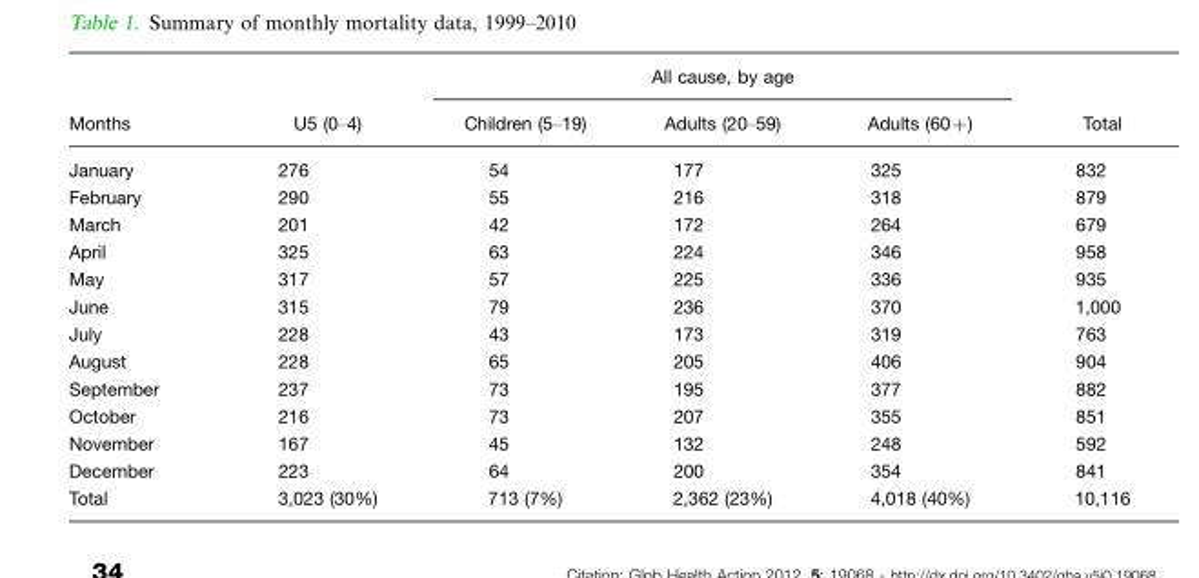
<table><thead><tr><td rowspan="2">Months</td><td rowspan="2">U5 (0–4)</td><td colspan="3">All cause, by age</td><td rowspan="2">Total</td></tr><tr><td>Children (5–19)</td><td>Adults (20–59)</td><td>Adults (60+)</td></tr></thead><tbody><tr><td>January</td><td>276</td><td>54</td><td>177</td><td>325</td><td>832</td></tr><tr><td>February</td><td>290</td><td>55</td><td>216</td><td>318</td><td>879</td></tr><tr><td>March</td><td>201</td><td>42</td><td>172</td><td>264</td><td>679</td></tr><tr><td>April</td><td>325</td><td>63</td><td>224</td><td>346</td><td>958</td></tr><tr><td>May</td><td>317</td><td>57</td><td>225</td><td>336</td><td>935</td></tr><tr><td>June</td><td>315</td><td>79</td><td>236</td><td>370</td><td>1,000</td></tr><tr><td>July</td><td>228</td><td>43</td><td>173</td><td>319</td><td>763</td></tr><tr><td>August</td><td>228</td><td>65</td><td>205</td><td>406</td><td>904</td></tr><tr><td>September</td><td>237</td><td>73</td><td>195</td><td>377</td><td>882</td></tr><tr><td>October</td><td>216</td><td>73</td><td>207</td><td>355</td><td>851</td></tr><tr><td>November</td><td>167</td><td>45</td><td>132</td><td>248</td><td>592</td></tr><tr><td>December</td><td>223</td><td>64</td><td>200</td><td>354</td><td>841</td></tr><tr><td>Total</td><td>3,023 (30%)</td><td>713 (7%)</td><td>2,362 (23%)</td><td>4,018 (40%)</td><td>10,116</td></tr></tbody></table>